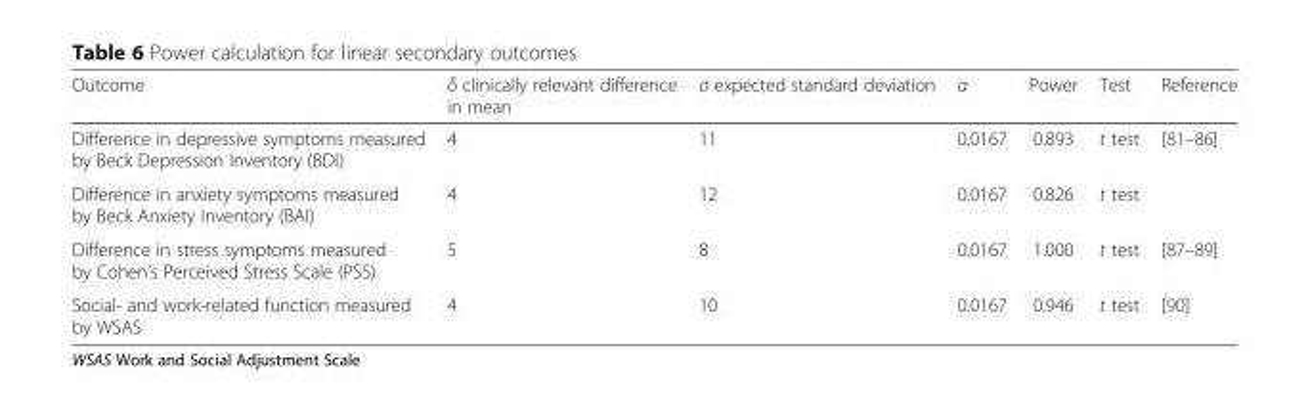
<table><thead><tr><td>Outcome</td><td>δ clinically relevant difference in mean</td><td>σ expected standard deviation</td><td>α</td><td>Power</td><td>Test</td><td>Reference</td></tr></thead><tbody><tr><td>Difference in depressive symptoms measured by Beck Depression Inventory (BDI)</td><td>4</td><td>11</td><td>0.0167</td><td>0.893</td><td>t test</td><td rowspan="2">[81–86]</td></tr><tr><td>Difference in anxiety symptoms measured by Beck Anxiety Inventory (BAI)</td><td>4</td><td>12</td><td>0.0167</td><td>0.826</td><td>t test</td></tr><tr><td>Difference in stress symptoms measured by Cohen’s Perceived Stress Scale (PSS)</td><td>5</td><td>8</td><td>0.0167</td><td>1.000</td><td>t test</td><td>[87–89]</td></tr><tr><td>Social- and work-related function measured by WSAS</td><td>4</td><td>10</td><td>0.0167</td><td>0.946</td><td>t test</td><td>[90]</td></tr></tbody></table>